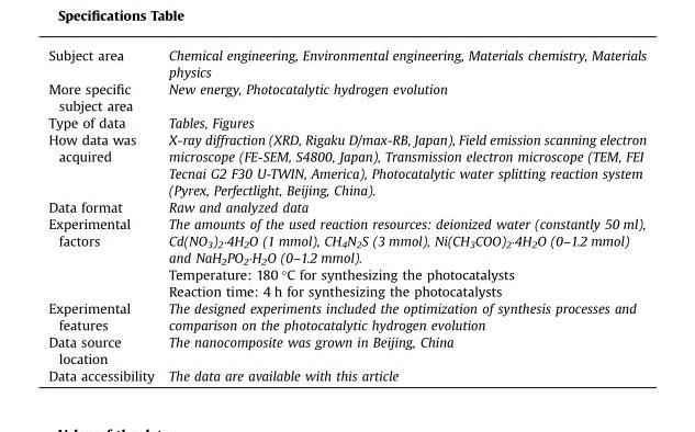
<table><tbody><tr><td>Subject area</td><td>Chemical engineering, Environmental engineering, Materials chemistry, Materials physics</td></tr><tr><td>More specific subject area</td><td>New energy, Photocatalytic hydrogen evolution</td></tr><tr><td>Type of data</td><td>Tables, Figures</td></tr><tr><td>How data was acquired</td><td>X-ray diffraction (XRD, Rigaku D/max-RB, Japan), Field emission scanning electron microscope (FE-SEM, S4800, Japan), Transmission electron microscope (TEM, FEI Tecnai G2 F30 U-TWIN, America), Photocatalytic water splitting reaction system (Pyrex, Perfectlight, Beijing, China).</td></tr><tr><td>Data format</td><td>Raw and analyzed data</td></tr><tr><td rowspan="3">Experimental factors</td><td>The amounts of the used reaction resources: deionized water (constantly 50 ml), Cd(NO3)2·4H2O (1 mmol), CH4N2S (3 mmol), Ni(CH3COO)2·4H2O (0–1.2 mmol) and NaH2PO2·H2O (0–1.2 mmol).</td></tr><tr><td>Temperature: 180 °C for synthesizing the photocatalysts</td></tr><tr><td>Reaction time: 4 h for synthesizing the photocatalysts</td></tr><tr><td>Experimental features</td><td>The designed experiments included the optimization of synthesis processes and comparison on the photocatalytic hydrogen evolution</td></tr><tr><td>Data source location</td><td>The nanocomposite was grown in Beijing, China</td></tr><tr><td>Data accessibility</td><td>The data are available with this article</td></tr></tbody></table>